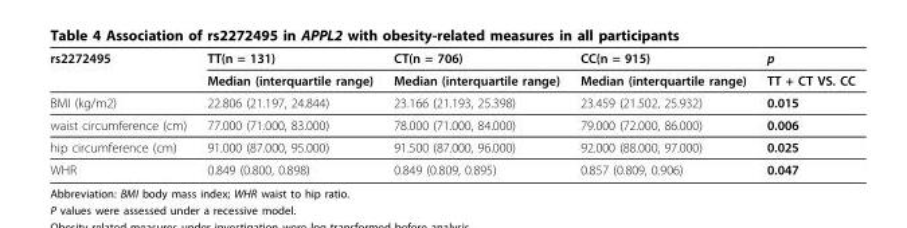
<table><thead><tr><td rowspan="2">rs2272495</td><td rowspan="2">TT(n = 131) Median (interquartile range)</td><td rowspan="2">CT(n = 706) Median (interquartile range)</td><td rowspan="2">CC(n = 915) Median (interquartile range)</td><td rowspan="2">p TT + CT VS. CC</td></tr><tr></tr></thead><tbody><tr><td>BMI (kg/m2)</td><td>22.806 (21.197, 24.844)</td><td>23.166 (21.193, 25.398)</td><td>23.459 (21.502, 25.932)</td><td>0.015</td></tr><tr><td>waist circumference (cm)</td><td>77.000 (71.000, 83.000)</td><td>78.000 (71.000, 84.000)</td><td>79.000 (72.000, 86.000)</td><td>0.006</td></tr><tr><td>hip circumference (cm)</td><td>91.000 (87.000, 95.000)</td><td>91.500 (87.000, 96.000)</td><td>92.000 (88.000, 97.000)</td><td>0.025</td></tr><tr><td>WHR</td><td>0.849 (0.800, 0.898)</td><td>0.849 (0.809, 0.895)</td><td>0.857 (0.809, 0.906)</td><td>0.047</td></tr></tbody></table>